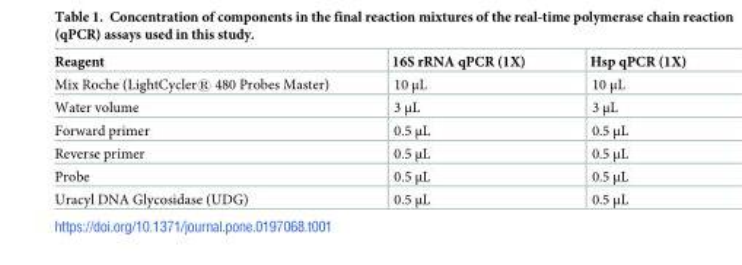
<table><thead><tr><td>Reagent</td><td>16S rRNA qPCR (1X)</td><td>Hsp qPCR (1X)</td></tr></thead><tbody><tr><td>Mix Roche (LightCycler® 480 Probes Master)</td><td>10 μL</td><td>10 μL</td></tr><tr><td>Water volume</td><td>3 μL</td><td>3 μL</td></tr><tr><td>Forward primer</td><td>0.5 μL</td><td>0.5 μL</td></tr><tr><td>Reverse primer</td><td>0.5 μL</td><td>0.5 μL</td></tr><tr><td>Probe</td><td>0.5 μL</td><td>0.5 μL</td></tr><tr><td>Uracyl DNA Glycosidase (UDG)</td><td>0.5 μL</td><td>0.5 μL</td></tr></tbody></table>